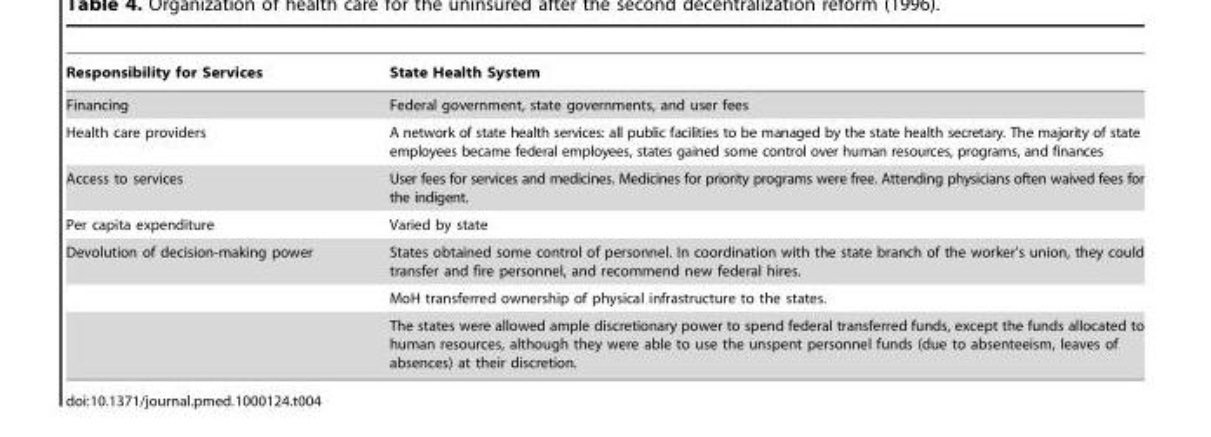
<table><thead><tr><td>Responsibility for Services</td><td>State Health System</td></tr></thead><tbody><tr><td>Financing</td><td>Federal government, state governments, and user fees</td></tr><tr><td>Health care providers</td><td>A network of state health services: all public facilities to be managed by the state health secretary. The majority of state employees became federal employees, states gained some control over human resources, programs, and finances</td></tr><tr><td>Access to services</td><td>User fees for services and medicines. Medicines for priority programs were free. Attending physicians often waived fees for the indigent.</td></tr><tr><td>Per capita expenditure</td><td>Varied by state</td></tr><tr><td rowspan="3">Devolution of decision-making power</td><td>States obtained some control of personnel. In coordination with the state branch of the worker’s union, they could transfer and fire personnel, and recommend new federal hires.</td></tr><tr><td>MoH transferred ownership of physical infrastructure to the states.</td></tr><tr><td>The states were allowed ample discretionary power to spend federal transferred funds, except the funds allocated to human resources, although they were able to use the unspent personnel funds (due to absenteeism, leaves of absences) at their discretion.</td></tr></tbody></table>